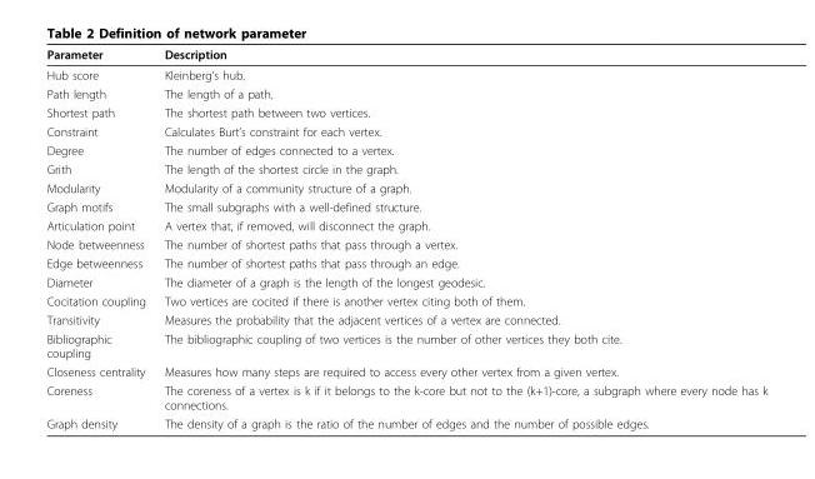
<table><thead><tr><td>Parameter</td><td>Description</td></tr></thead><tbody><tr><td>Hub score</td><td>Kleinberg’s hub.</td></tr><tr><td>Path length</td><td>The length of a path.</td></tr><tr><td>Shortest path</td><td>The shortest path between two vertices.</td></tr><tr><td>Constraint</td><td>Calculates Burt’s constraint for each vertex.</td></tr><tr><td>Degree</td><td>The number of edges connected to a vertex.</td></tr><tr><td>Grith</td><td>The length of the shortest circle in the graph.</td></tr><tr><td>Modularity</td><td>Modularity of a community structure of a graph.</td></tr><tr><td>Graph motifs</td><td>The small subgraphs with a well-defined structure.</td></tr><tr><td>Articulation point</td><td>A vertex that, if removed, will disconnect the graph.</td></tr><tr><td>Node betweenness</td><td>The number of shortest paths that pass through a vertex.</td></tr><tr><td>Edge betweenness</td><td>The number of shortest paths that pass through an edge.</td></tr><tr><td>Diameter</td><td>The diameter of a graph is the length of the longest geodesic.</td></tr><tr><td>Cocitation coupling</td><td>Two vertices are cocited if there is another vertex citing both of them.</td></tr><tr><td>Transitivity</td><td>Measures the probability that the adjacent vertices of a vertex are connected.</td></tr><tr><td>Bibliographic coupling</td><td>The bibliographic coupling of two vertices is the number of other vertices they both cite.</td></tr><tr><td>Closeness centrality</td><td>Measures how many steps are required to access every other vertex from a given vertex.</td></tr><tr><td>Coreness</td><td>The coreness of a vertex is k if it belongs to the k-core but not to the (k+1)-core, a subgraph where every node has k connections.</td></tr><tr><td>Graph density</td><td>The density of a graph is the ratio of the number of edges and the number of possible edges.</td></tr></tbody></table>